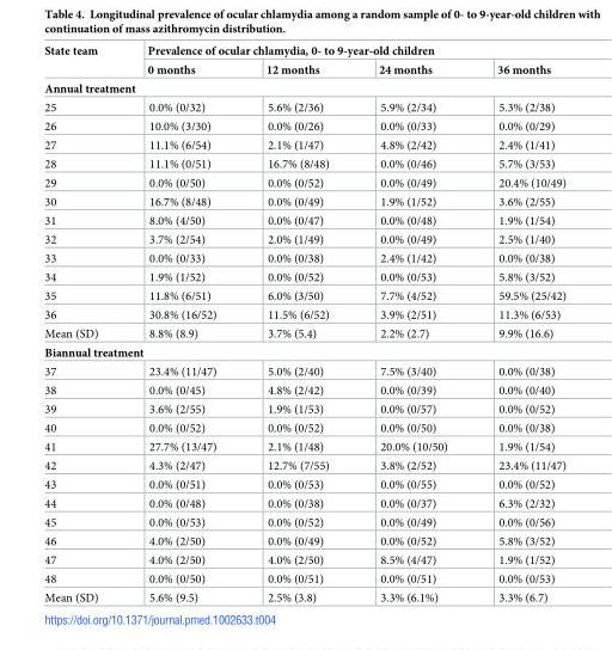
<table><thead><tr><td rowspan="2">State team</td><td colspan="4">Prevalence of ocular chlamydia, 0- to 9-year-old children</td></tr><tr><td>0 months</td><td>12 months</td><td>24 months</td><td>36 months</td></tr></thead><tbody><tr><td colspan="5">Annual treatment</td></tr><tr><td>25</td><td>0.0% (0/32)</td><td>5.6% (2/36)</td><td>5.9% (2/34)</td><td>5.3% (2/38)</td></tr><tr><td>26</td><td>10.0% (3/30)</td><td>0.0% (0/26)</td><td>0.0% (0/33)</td><td>0.0% (0/29)</td></tr><tr><td>27</td><td>11.1% (6/54)</td><td>2.1% (1/47)</td><td>4.8% (2/42)</td><td>2.4% (1/41)</td></tr><tr><td>28</td><td>11.1% (0/51)</td><td>16.7% (8/48)</td><td>0.0% (0/46)</td><td>5.7% (3/53)</td></tr><tr><td>29</td><td>0.0% (0/50)</td><td>0.0% (0/52)</td><td>0.0% (0/49)</td><td>20.4% (10/49)</td></tr><tr><td>30</td><td>16.7% (8/48)</td><td>0.0% (0/49)</td><td>1.9% (1/52)</td><td>3.6% (2/55)</td></tr><tr><td>31</td><td>8.0% (4/50)</td><td>0.0% (0/47)</td><td>0.0% (0/48)</td><td>1.9% (1/54)</td></tr><tr><td>32</td><td>3.7% (2/54)</td><td>2.0% (1/49)</td><td>0.0% (0/49)</td><td>2.5% (1/40)</td></tr><tr><td>33</td><td>0.0% (0/33)</td><td>0.0% (0/38)</td><td>2.4% (1/42)</td><td>0.0% (0/38)</td></tr><tr><td>34</td><td>1.9% (1/52)</td><td>0.0% (0/52)</td><td>0.0% (0/53)</td><td>5.8% (3/52)</td></tr><tr><td>35</td><td>11.8% (6/51)</td><td>6.0% (3/50)</td><td>7.7% (4/52)</td><td>59.5% (25/42)</td></tr><tr><td>36</td><td>30.8% (16/52)</td><td>11.5% (6/52)</td><td>3.9% (2/51)</td><td>11.3% (6/53)</td></tr><tr><td>Mean (SD)</td><td>8.8% (8.9)</td><td>3.7% (5.4)</td><td>2.2% (2.7)</td><td>9.9% (16.6)</td></tr><tr><td colspan="5">Biannual treatment</td></tr><tr><td>37</td><td>23.4% (11/47)</td><td>5.0% (2/40)</td><td>7.5% (3/40)</td><td>0.0% (0/38)</td></tr><tr><td>38</td><td>0.0% (0/45)</td><td>4.8% (2/42)</td><td>0.0% (0/39)</td><td>0.0% (0/40)</td></tr><tr><td>39</td><td>3.6% (2/55)</td><td>1.9% (1/53)</td><td>0.0% (0/57)</td><td>0.0% (0/52)</td></tr><tr><td>40</td><td>0.0% (0/52)</td><td>0.0% (0/52)</td><td>0.0% (0/50)</td><td>0.0% (0/38)</td></tr><tr><td>41</td><td>27.7% (13/47)</td><td>2.1% (1/48)</td><td>20.0% (10/50)</td><td>1.9% (1/54)</td></tr><tr><td>42</td><td>4.3% (2/47)</td><td>12.7% (7/55)</td><td>3.8% (2/52)</td><td>23.4% (11/47)</td></tr><tr><td>43</td><td>0.0% (0/51)</td><td>0.0% (0/53)</td><td>0.0% (0/55)</td><td>0.0% (0/52)</td></tr><tr><td>44</td><td>0.0% (0/48)</td><td>0.0% (0/38)</td><td>0.0% (0/37)</td><td>6.3% (2/32)</td></tr><tr><td>45</td><td>0.0% (0/53)</td><td>0.0% (0/52)</td><td>0.0% (0/49)</td><td>0.0% (0/56)</td></tr><tr><td>46</td><td>4.0% (2/50)</td><td>0.0% (0/49)</td><td>0.0% (0/52)</td><td>5.8% (3/52)</td></tr><tr><td>47</td><td>4.0% (2/50)</td><td>4.0% (2/50)</td><td>8.5% (4/47)</td><td>1.9% (1/52)</td></tr><tr><td>48</td><td>0.0% (0/50)</td><td>0.0% (0/51)</td><td>0.0% (0/51)</td><td>0.0% (0/53)</td></tr><tr><td>Mean (SD)</td><td>5.6% (9.5)</td><td>2.5% (3.8)</td><td>3.3% (6.1%)</td><td>3.3% (6.7)</td></tr></tbody></table>